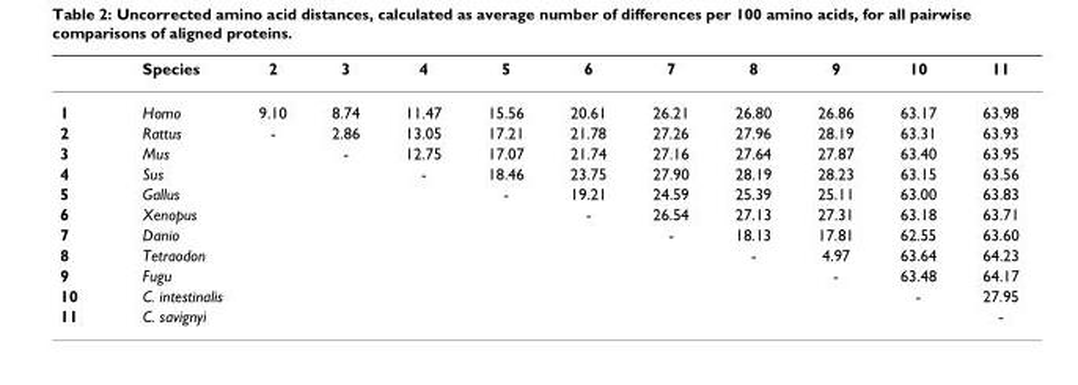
<table><thead><tr><td></td><td>Species</td><td>2</td><td>3</td><td>4</td><td>5</td><td>6</td><td>7</td><td>8</td><td>9</td><td>10</td><td>11</td></tr></thead><tbody><tr><td>1</td><td>Homo</td><td>9.10</td><td>8.74</td><td>11.47</td><td>15.56</td><td>20.61</td><td>26.21</td><td>26.80</td><td>26.86</td><td>63.17</td><td>63.98</td></tr><tr><td>2</td><td>Rattus</td><td>-</td><td>2.86</td><td>13.05</td><td>17.21</td><td>21.78</td><td>27.26</td><td>27.96</td><td>28.19</td><td>63.31</td><td>63.93</td></tr><tr><td>3</td><td>Mus</td><td></td><td>-</td><td>12.75</td><td>17.07</td><td>21.74</td><td>27.16</td><td>27.64</td><td>27.87</td><td>63.40</td><td>63.95</td></tr><tr><td>4</td><td>Sus</td><td></td><td></td><td>-</td><td>18.46</td><td>23.75</td><td>27.90</td><td>28.19</td><td>28.23</td><td>63.15</td><td>63.56</td></tr><tr><td>5</td><td>Gallus</td><td></td><td></td><td></td><td>-</td><td>19.21</td><td>24.59</td><td>25.39</td><td>25.11</td><td>63.00</td><td>63.83</td></tr><tr><td>6</td><td>Xenopus</td><td></td><td></td><td></td><td></td><td>-</td><td>26.54</td><td>27.13</td><td>27.31</td><td>63.18</td><td>63.71</td></tr><tr><td>7</td><td>Danio</td><td></td><td></td><td></td><td></td><td></td><td>-</td><td>18.13</td><td>17.81</td><td>62.55</td><td>63.60</td></tr><tr><td>8</td><td>Tetraodon</td><td></td><td></td><td></td><td></td><td></td><td></td><td>-</td><td>4.97</td><td>63.64</td><td>64.23</td></tr><tr><td>9</td><td>Fugu</td><td></td><td></td><td></td><td></td><td></td><td></td><td></td><td>-</td><td>63.48</td><td>64.17</td></tr><tr><td>10</td><td>C. intestinalis</td><td></td><td></td><td></td><td></td><td></td><td></td><td></td><td></td><td>-</td><td>27.95</td></tr><tr><td>11</td><td>C. savignyi</td><td></td><td></td><td></td><td></td><td></td><td></td><td></td><td></td><td></td><td>-</td></tr></tbody></table>